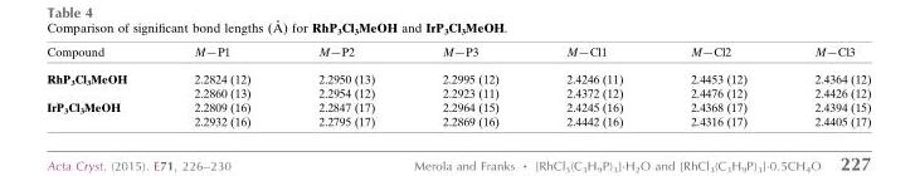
<table><thead><tr><td>Compound</td><td>M—P1</td><td>M—P2</td><td>M—P3</td><td>M—Cl1</td><td>M—Cl2</td><td>M—Cl3</td></tr></thead><tbody><tr><td rowspan="2">RhP<sub>3</sub>Cl<sub>3</sub>MeOH</td><td>2.2824 (12)</td><td>2.2950 (13)</td><td>2.2995 (12)</td><td>2.4246 (11)</td><td>2.4453 (12)</td><td>2.4364 (12)</td></tr><tr><td>2.2860 (13)</td><td>2.2954 (12)</td><td>2.2923 (11)</td><td>2.4372 (12)</td><td>2.4476 (12)</td><td>2.4426 (12)</td></tr><tr><td rowspan="2">IrP<sub>3</sub>Cl<sub>3</sub>MeOH</td><td>2.2809 (16)</td><td>2.2847 (17)</td><td>2.2964 (15)</td><td>2.4245 (16)</td><td>2.4368 (17)</td><td>2.4394 (15)</td></tr><tr><td>2.2932 (16)</td><td>2.2795 (17)</td><td>2.2869 (16)</td><td>2.4442 (16)</td><td>2.4316 (17)</td><td>2.4405 (17)</td></tr></tbody></table>